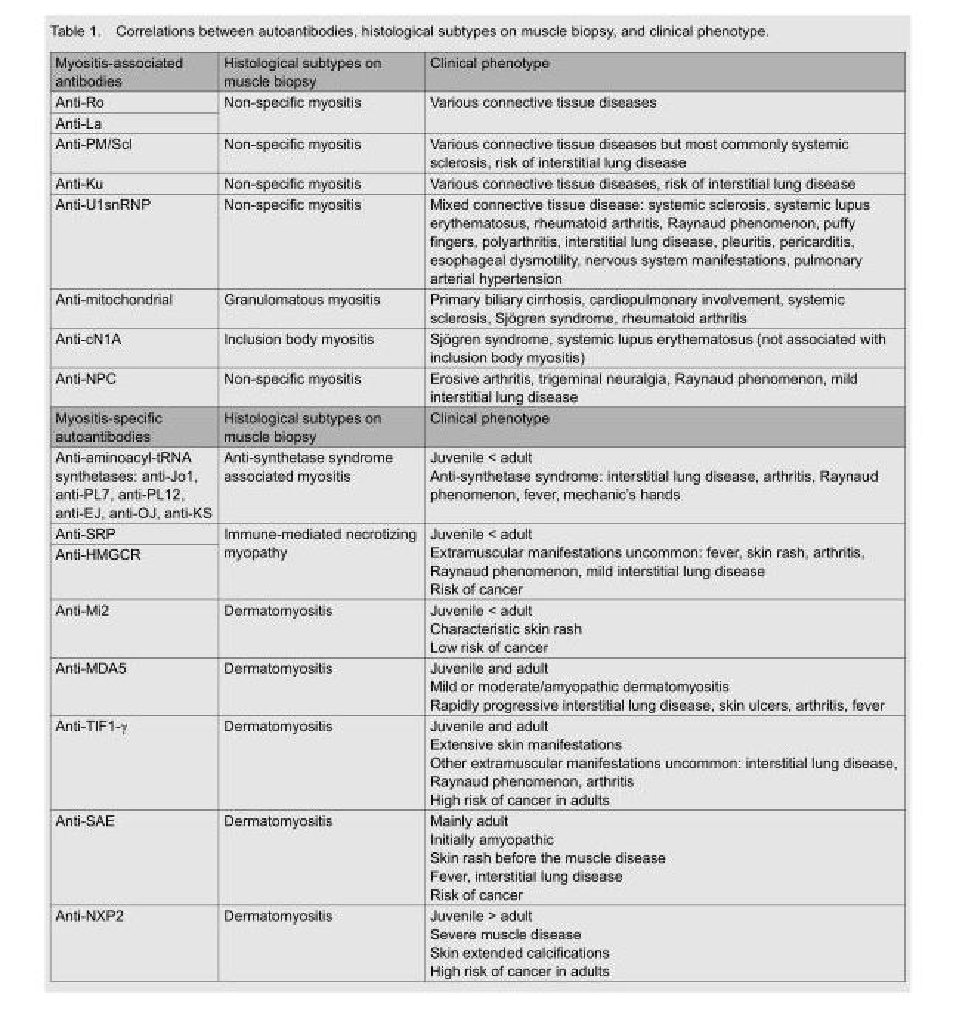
<table><tbody><tr><td>Myositis-associated antibodies</td><td>Histological subtypes on muscle biopsy</td><td>Clinical phenotype</td></tr><tr><td>Anti-Ro</td><td rowspan="2">Non-specific myositis</td><td rowspan="2">Various connective tissue diseases</td></tr><tr><td>Anti-La</td></tr><tr><td>Anti-PM/Scl</td><td>Non-specific myositis</td><td>Various connective tissue diseases but most commonly systemic sclerosis, risk of interstitial lung disease</td></tr><tr><td>Anti-Ku</td><td>Non-specific myositis</td><td>Various connective tissue diseases, risk of interstitial lung disease</td></tr><tr><td>Anti-U1snRNP</td><td>Non-specific myositis</td><td>Mixed connective tissue disease: systemic sclerosis, systemic lupus erythematosus, rheumatoid arthritis, Raynaud phenomenon, puffy fingers, polyarthritis, interstitial lung disease, pleuritis, pericarditis, esophageal dysmotility, nervous system manifestations, pulmonary arterial hypertension</td></tr><tr><td>Anti-mitochondrial</td><td>Granulomatous myositis</td><td>Primary biliary cirrhosis, cardiopulmonary involvement, systemic sclerosis, Sjögren syndrome, rheumatoid arthritis</td></tr><tr><td>Anti-cN1A</td><td>Inclusion body myositis</td><td>Sjögren syndrome, systemic lupus erythematosus (not associated with inclusion body myositis)</td></tr><tr><td>Anti-NPC</td><td>Non-specific myositis</td><td>Erosive arthritis, trigeminal neuralgia, Raynaud phenomenon, mild interstitial lung disease</td></tr><tr><td>Myositis-specific autoantibodies</td><td>Histological subtypes on muscle biopsy</td><td>Clinical phenotype</td></tr><tr><td>Anti-aminoacyl-tRNA synthetases: anti-Jo1, anti-PL7, anti-PL12, anti-EJ, anti-OJ, anti-KS</td><td>Anti-synthetase syndrome associated myositis</td><td>Juvenile &lt; adult Anti-synthetase syndrome: interstitial lung disease, arthritis, Raynaud phenomenon, fever, mechanic’s hands</td></tr><tr><td>Anti-SRP</td><td rowspan="2">Immune-mediated necrotizing myopathy</td><td rowspan="2">Juvenile &lt; adult Extramuscular manifestations uncommon: fever, skin rash, arthritis, Raynaud phenomenon, mild interstitial lung disease Risk of cancer</td></tr><tr><td>Anti-HMGCR</td></tr><tr><td>Anti-Mi2</td><td>Dermatomyositis</td><td>Juvenile &lt; adult Characteristic skin rash Low risk of cancer</td></tr><tr><td>Anti-MDA5</td><td>Dermatomyositis</td><td>Juvenile and adult Mild or moderate/amyopathic dermatomyositis Rapidly progressive interstitial lung disease, skin ulcers, arthritis, fever</td></tr><tr><td>Anti-TIF1-γ</td><td>Dermatomyositis</td><td>Juvenile and adult Extensive skin manifestations Other extramuscular manifestations uncommon: interstitial lung disease, Raynaud phenomenon, arthritis High risk of cancer in adults</td></tr><tr><td>Anti-SAE</td><td>Dermatomyositis</td><td>Mainly adult Initially amyopathic Skin rash before the muscle disease Fever, interstitial lung disease Risk of cancer</td></tr><tr><td>Anti-NXP2</td><td>Dermatomyositis</td><td>Juvenile &gt; adult Severe muscle disease Skin extended calcifications High risk of cancer in adults</td></tr></tbody></table>